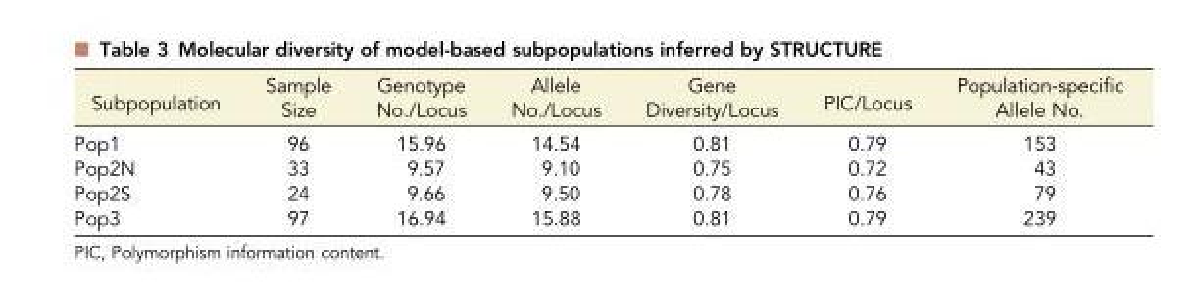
<table><thead><tr><td>Subpopulation</td><td>Sample Size</td><td>Genotype No./Locus</td><td>Allele No./Locus</td><td>Gene Diversity/Locus</td><td>PIC/Locus</td><td>Population-specific Allele No.</td></tr></thead><tbody><tr><td>Pop1</td><td>96</td><td>15.96</td><td>14.54</td><td>0.81</td><td>0.79</td><td>153</td></tr><tr><td>Pop2N</td><td>33</td><td>9.57</td><td>9.10</td><td>0.75</td><td>0.72</td><td>43</td></tr><tr><td>Pop2S</td><td>24</td><td>9.66</td><td>9.50</td><td>0.78</td><td>0.76</td><td>79</td></tr><tr><td>Pop3</td><td>97</td><td>16.94</td><td>15.88</td><td>0.81</td><td>0.79</td><td>239</td></tr></tbody></table>